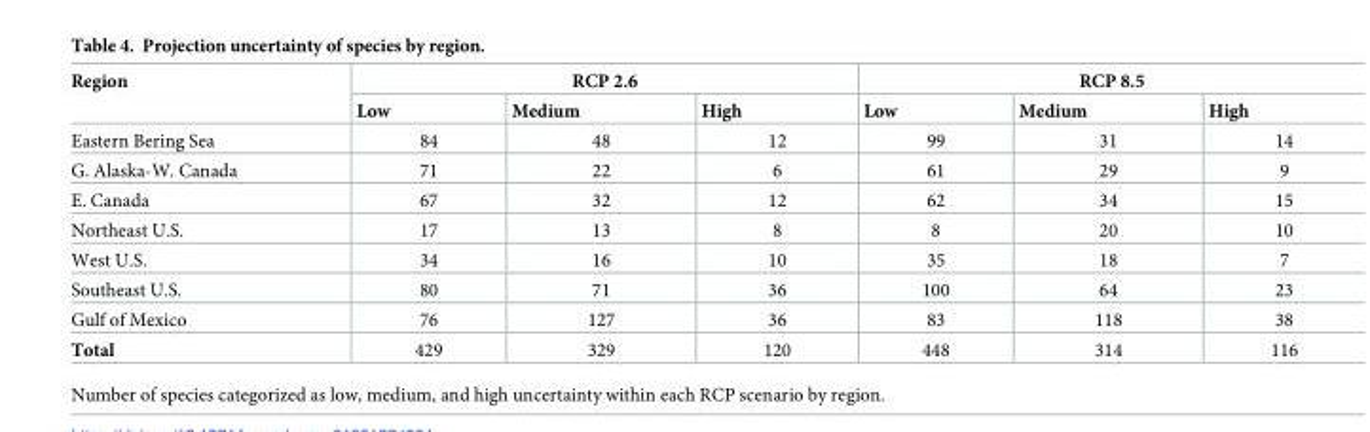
<table><thead><tr><td rowspan="2">Region</td><td colspan="3">RCP 2.6</td><td colspan="3">RCP 8.5</td></tr><tr><td>Low</td><td>Medium</td><td>High</td><td>Low</td><td>Medium</td><td>High</td></tr></thead><tbody><tr><td>Eastern Bering Sea</td><td>84</td><td>48</td><td>12</td><td>99</td><td>31</td><td>14</td></tr><tr><td>G. Alaska-W. Canada</td><td>71</td><td>22</td><td>6</td><td>61</td><td>29</td><td>9</td></tr><tr><td>E. Canada</td><td>67</td><td>32</td><td>12</td><td>62</td><td>34</td><td>15</td></tr><tr><td>Northeast U.S.</td><td>17</td><td>13</td><td>8</td><td>8</td><td>20</td><td>10</td></tr><tr><td>West U.S.</td><td>34</td><td>16</td><td>10</td><td>35</td><td>18</td><td>7</td></tr><tr><td>Southeast U.S.</td><td>80</td><td>71</td><td>36</td><td>100</td><td>64</td><td>23</td></tr><tr><td>Gulf of Mexico</td><td>76</td><td>127</td><td>36</td><td>83</td><td>118</td><td>38</td></tr><tr><td>Total</td><td>429</td><td>329</td><td>120</td><td>448</td><td>314</td><td>116</td></tr></tbody></table>